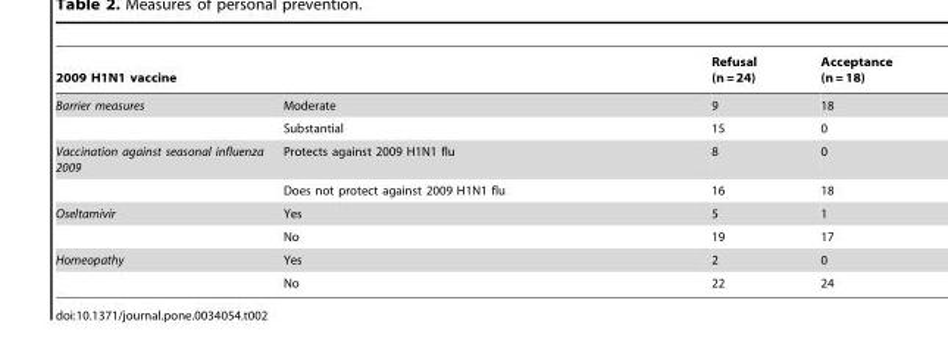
<table><thead><tr><td>2009 H1N1 vaccine</td><td></td><td>Refusal (n = 24)</td><td>Acceptance (n = 18)</td></tr></thead><tbody><tr><td rowspan="2">Barrier measures</td><td>Moderate</td><td>9</td><td>18</td></tr><tr><td>Substantial</td><td>15</td><td>0</td></tr><tr><td rowspan="2">Vaccination against seasonal influenza 2009</td><td>Protects against 2009 H1N1 flu</td><td>8</td><td>0</td></tr><tr><td>Does not protect against 2009 H1N1 flu</td><td>16</td><td>18</td></tr><tr><td rowspan="2">Oseltamivir</td><td>Yes</td><td>5</td><td>1</td></tr><tr><td>No</td><td>19</td><td>17</td></tr><tr><td rowspan="2">Homeopathy</td><td>Yes</td><td>2</td><td>0</td></tr><tr><td>No</td><td>22</td><td>24</td></tr></tbody></table>